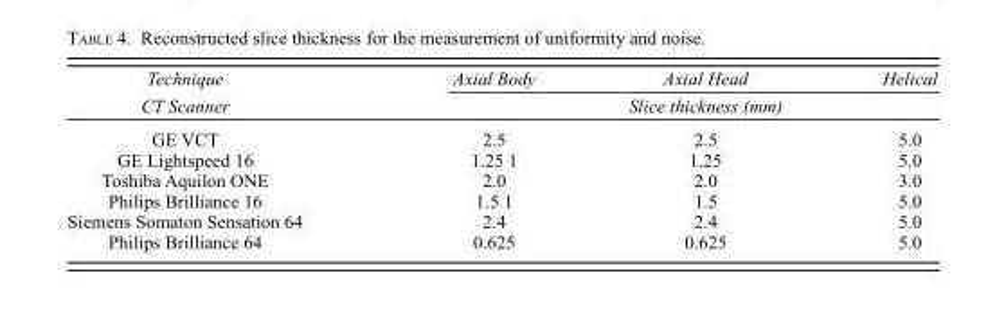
<table><thead><tr><td rowspan="2">Technique CT Scanner</td><td>Axial Body</td><td>Axial Head</td><td>Helical</td></tr><tr><td colspan="3">Slice thickness (mm)</td></tr></thead><tbody><tr><td>GE VCT</td><td>2.5</td><td>2.5</td><td>5.0</td></tr><tr><td>GE Lightspeed 16</td><td>1.25 1</td><td>1.25</td><td>5.0</td></tr><tr><td>Toshiba Aquilon ONE</td><td>2.0</td><td>2.0</td><td>3.0</td></tr><tr><td>Philips Brilliance 16</td><td>1.5 1</td><td>1.5</td><td>5.0</td></tr><tr><td>Siemens Somaton Sensation 64</td><td>2.4</td><td>2.4</td><td>5.0</td></tr><tr><td>Philips Brilliance 64</td><td>0.625</td><td>0.625</td><td>5.0</td></tr></tbody></table>